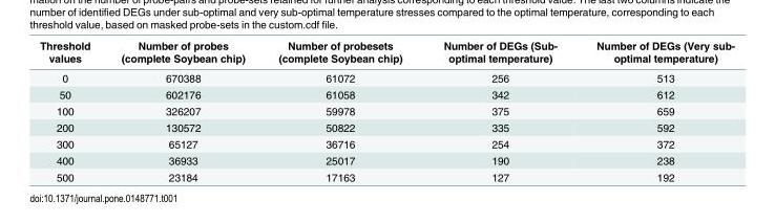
<table><thead><tr><td>Threshold values</td><td>Number of probes (complete Soybean chip)</td><td>Number of probesets (complete Soybean chip)</td><td>Number of DEGs (Sub- optimal temperature)</td><td>Number of DEGs (Very sub- optimal temperature)</td></tr></thead><tbody><tr><td>0</td><td>670388</td><td>61072</td><td>256</td><td>513</td></tr><tr><td>50</td><td>602176</td><td>61058</td><td>342</td><td>612</td></tr><tr><td>100</td><td>326207</td><td>59978</td><td>375</td><td>659</td></tr><tr><td>200</td><td>130572</td><td>50822</td><td>335</td><td>592</td></tr><tr><td>300</td><td>65127</td><td>36716</td><td>254</td><td>372</td></tr><tr><td>400</td><td>36933</td><td>25017</td><td>190</td><td>238</td></tr><tr><td>500</td><td>23184</td><td>17163</td><td>127</td><td>192</td></tr></tbody></table>